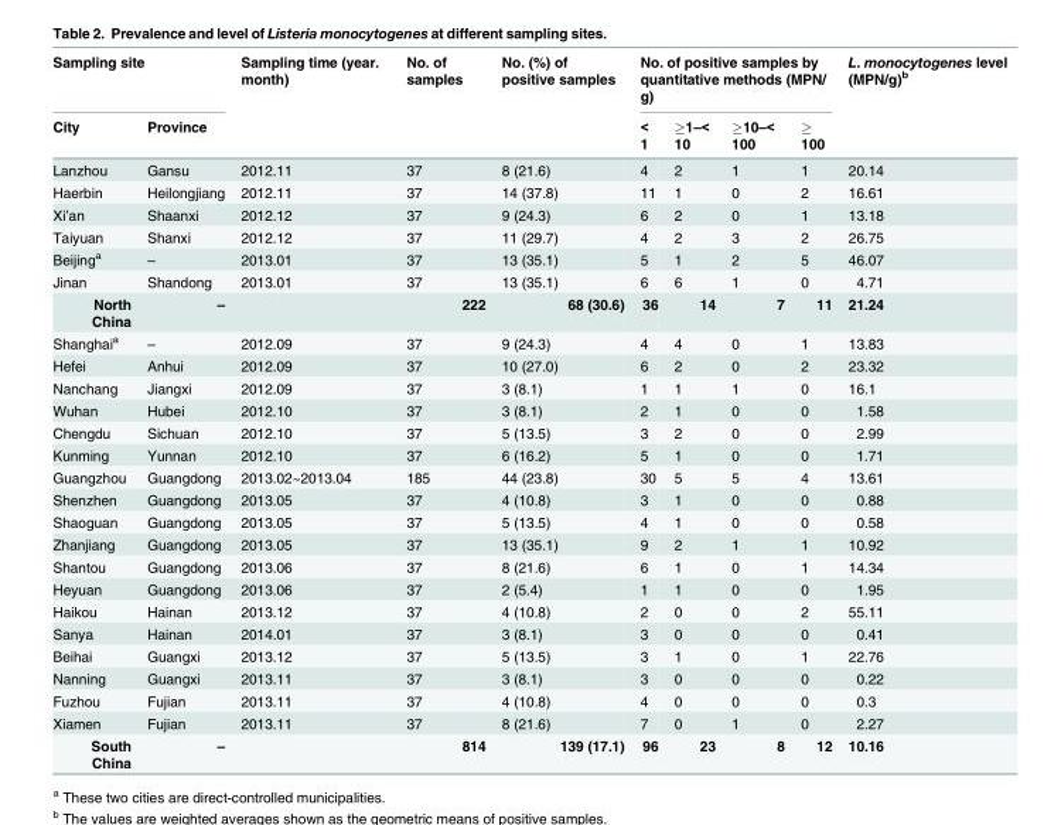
<table><thead><tr><td colspan="2">Sampling site</td><td rowspan="2">Sampling time (year. month)</td><td rowspan="2">No. of samples</td><td rowspan="2">No. (%) of positive samples</td><td colspan="4">No. of positive samples by quantitative methods (MPN/ g)</td><td rowspan="2">L. monocytogenes level (MPN/g)<sup>b</sup></td></tr><tr><td>City</td><td>Province</td><td>&lt; 1</td><td>≥1–&lt; 10</td><td>≥10–&lt; 100</td><td>≥ 100</td></tr></thead><tbody><tr><td>Lanzhou</td><td>Gansu</td><td>2012.11</td><td>37</td><td>8 (21.6)</td><td>4</td><td>2</td><td>1</td><td>1</td><td>20.14</td></tr><tr><td>Haerbin</td><td>Heilongjiang</td><td>2012.11</td><td>37</td><td>14 (37.8)</td><td>11</td><td>1</td><td>0</td><td>2</td><td>16.61</td></tr><tr><td>Xi’an</td><td>Shaanxi</td><td>2012.12</td><td>37</td><td>9 (24.3)</td><td>6</td><td>2</td><td>0</td><td>1</td><td>13.18</td></tr><tr><td>Taiyuan</td><td>Shanxi</td><td>2012.12</td><td>37</td><td>11 (29.7)</td><td>4</td><td>2</td><td>3</td><td>2</td><td>26.75</td></tr><tr><td>Beijing<sup>a</sup></td><td>–</td><td>2013.01</td><td>37</td><td>13 (35.1)</td><td>5</td><td>1</td><td>2</td><td>5</td><td>46.07</td></tr><tr><td>Jinan</td><td>Shandong</td><td>2013.01</td><td>37</td><td>13 (35.1)</td><td>6</td><td>6</td><td>1</td><td>0</td><td>4.71</td></tr><tr><td>North China</td><td>–</td><td></td><td>222</td><td>68 (30.6)</td><td>36</td><td>14</td><td>7</td><td>11</td><td>21.24</td></tr><tr><td>Shanghai<sup>a</sup></td><td>–</td><td>2012.09</td><td>37</td><td>9 (24.3)</td><td>4</td><td>4</td><td>0</td><td>1</td><td>13.83</td></tr><tr><td>Hefei</td><td>Anhui</td><td>2012.09</td><td>37</td><td>10 (27.0)</td><td>6</td><td>2</td><td>0</td><td>2</td><td>23.32</td></tr><tr><td>Nanchang</td><td>Jiangxi</td><td>2012.09</td><td>37</td><td>3 (8.1)</td><td>1</td><td>1</td><td>1</td><td>0</td><td>16.1</td></tr><tr><td>Wuhan</td><td>Hubei</td><td>2012.10</td><td>37</td><td>3 (8.1)</td><td>2</td><td>1</td><td>0</td><td>0</td><td>1.58</td></tr><tr><td>Chengdu</td><td>Sichuan</td><td>2012.10</td><td>37</td><td>5 (13.5)</td><td>3</td><td>2</td><td>0</td><td>0</td><td>2.99</td></tr><tr><td>Kunming</td><td>Yunnan</td><td>2012.10</td><td>37</td><td>6 (16.2)</td><td>5</td><td>1</td><td>0</td><td>0</td><td>1.71</td></tr><tr><td>Guangzhou</td><td>Guangdong</td><td>2013.02~2013.04</td><td>185</td><td>44 (23.8)</td><td>30</td><td>5</td><td>5</td><td>4</td><td>13.61</td></tr><tr><td>Shenzhen</td><td>Guangdong</td><td>2013.05</td><td>37</td><td>4 (10.8)</td><td>3</td><td>1</td><td>0</td><td>0</td><td>0.88</td></tr><tr><td>Shaoguan</td><td>Guangdong</td><td>2013.05</td><td>37</td><td>5 (13.5)</td><td>4</td><td>1</td><td>0</td><td>0</td><td>0.58</td></tr><tr><td>Zhanjiang</td><td>Guangdong</td><td>2013.05</td><td>37</td><td>13 (35.1)</td><td>9</td><td>2</td><td>1</td><td>1</td><td>10.92</td></tr><tr><td>Shantou</td><td>Guangdong</td><td>2013.06</td><td>37</td><td>8 (21.6)</td><td>6</td><td>1</td><td>0</td><td>1</td><td>14.34</td></tr><tr><td>Heyuan</td><td>Guangdong</td><td>2013.06</td><td>37</td><td>2 (5.4)</td><td>1</td><td>1</td><td>0</td><td>0</td><td>1.95</td></tr><tr><td>Haikou</td><td>Hainan</td><td>2013.12</td><td>37</td><td>4 (10.8)</td><td>2</td><td>0</td><td>0</td><td>2</td><td>55.11</td></tr><tr><td>Sanya</td><td>Hainan</td><td>2014.01</td><td>37</td><td>3 (8.1)</td><td>3</td><td>0</td><td>0</td><td>0</td><td>0.41</td></tr><tr><td>Beihai</td><td>Guangxi</td><td>2013.12</td><td>37</td><td>5 (13.5)</td><td>3</td><td>1</td><td>0</td><td>1</td><td>22.76</td></tr><tr><td>Nanning</td><td>Guangxi</td><td>2013.11</td><td>37</td><td>3 (8.1)</td><td>3</td><td>0</td><td>0</td><td>0</td><td>0.22</td></tr><tr><td>Fuzhou</td><td>Fujian</td><td>2013.11</td><td>37</td><td>4 (10.8)</td><td>4</td><td>0</td><td>0</td><td>0</td><td>0.3</td></tr><tr><td>Xiamen</td><td>Fujian</td><td>2013.11</td><td>37</td><td>8 (21.6)</td><td>7</td><td>0</td><td>1</td><td>0</td><td>2.27</td></tr><tr><td>South China</td><td>–</td><td></td><td>814</td><td>139 (17.1)</td><td>96</td><td>23</td><td>8</td><td>12</td><td>10.16</td></tr></tbody></table>